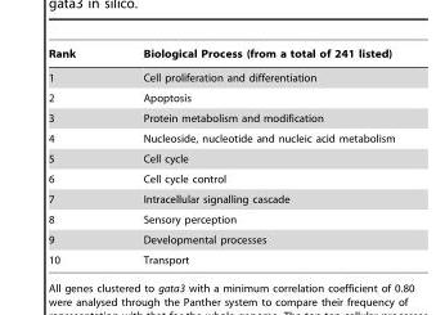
<table><thead><tr><td>Rank</td><td>Biological Process (from a total of 241 listed)</td></tr></thead><tbody><tr><td>1</td><td>Cell proliferation and differentiation</td></tr><tr><td>2</td><td>Apoptosis</td></tr><tr><td>3</td><td>Protein metabolism and modification</td></tr><tr><td>4</td><td>Nucleoside, nucleotide and nucleic acid metabolism</td></tr><tr><td>5</td><td>Cell cycle</td></tr><tr><td>6</td><td>Cell cycle control</td></tr><tr><td>7</td><td>Intracellular signalling cascade</td></tr><tr><td>8</td><td>Sensory perception</td></tr><tr><td>9</td><td>Developmental processes</td></tr><tr><td>10</td><td>Transport</td></tr></tbody></table>